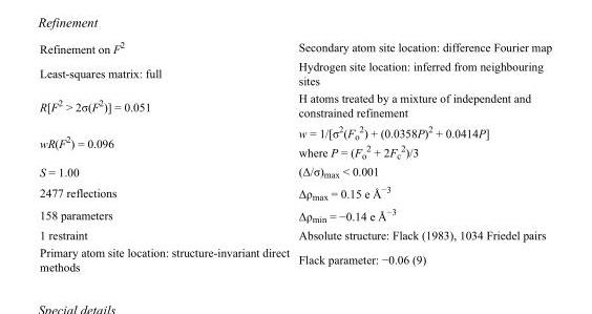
<table><tbody><tr><td>Refinement on F<sup>2</sup></td><td>Secondary atom site location: difference Fourier map</td></tr><tr><td>Least-squares matrix: full</td><td>Hydrogen site location: inferred from neighbouring sites</td></tr><tr><td>R[F<sup>2</sup> &gt; 2σ(F<sup>2</sup>)] = 0.051</td><td>H atoms treated by a mixture of independent and constrained refinement</td></tr><tr><td>wR(F<sup>2</sup>) = 0.096</td><td>w = 1/[σ<sup>2</sup>(F<sub>o</sub> <sup>2</sup>) + (0.0358P)<sup>2</sup> + 0.0414P] where P = (F<sub>o</sub> <sup>2</sup> + 2F<sub>c</sub> <sup>2</sup>)/3</td></tr><tr><td>S = 1.00</td><td>(Δ/σ)<sub>max</sub> &lt; 0.001</td></tr><tr><td>2477 reflections</td><td>Δρ<sub>max</sub> = 0.15 e Å<sup>−3</sup></td></tr><tr><td>158 parameters</td><td>Δρ<sub>min</sub> = −0.14 e Å<sup>−3</sup></td></tr><tr><td>1 restraint</td><td>Absolute structure: Flack (1983), 1034 Friedel pairs</td></tr><tr><td>Primary atom site location: structure-invariant direct methods</td><td>Flack parameter: −0.06 (9)</td></tr></tbody></table>